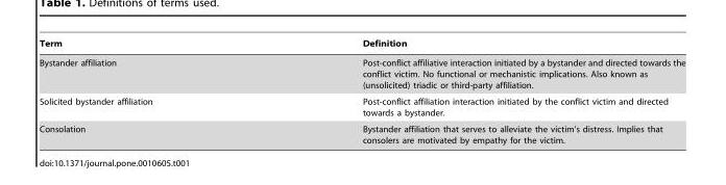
<table><thead><tr><td>Term</td><td>Definition</td></tr></thead><tbody><tr><td>Bystander affiliation</td><td>Post-conflict affiliative interaction initiated by a bystander and directed towards the conflict victim. No functional or mechanistic implications. Also known as (unsolicited) triadic or third-party affiliation.</td></tr><tr><td>Solicited bystander affiliation</td><td>Post-conflict affiliation interaction initiated by the conflict victim and directed towards a bystander.</td></tr><tr><td>Consolation</td><td>Bystander affiliation that serves to alleviate the victim’s distress. Implies that consolers are motivated by empathy for the victim.</td></tr></tbody></table>